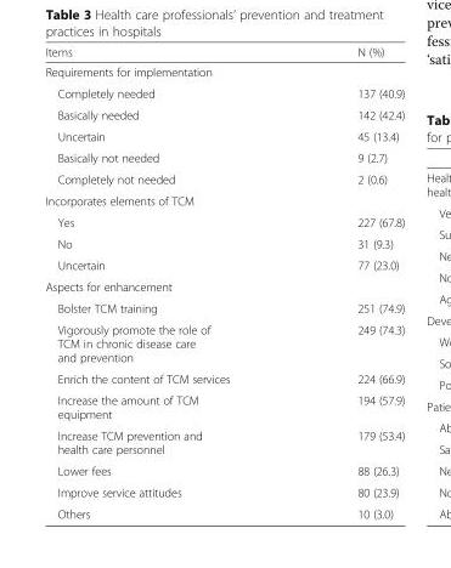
<table><thead><tr><td>Items</td><td>N (%)</td></tr></thead><tbody><tr><td colspan="2">Requirements for implementation</td></tr><tr><td>Completely needed</td><td>137 (40.9)</td></tr><tr><td>Basically needed</td><td>142 (42.4)</td></tr><tr><td>Uncertain</td><td>45 (13.4)</td></tr><tr><td>Basically not needed</td><td>9 (2.7)</td></tr><tr><td>Completely not needed</td><td>2 (0.6)</td></tr><tr><td colspan="2">Incorporates elements of TCM</td></tr><tr><td>Yes</td><td>227 (67.8)</td></tr><tr><td>No</td><td>31 (9.3)</td></tr><tr><td>Uncertain</td><td>77 (23.0)</td></tr><tr><td colspan="2">Aspects for enhancement</td></tr><tr><td>Bolster TCM training</td><td>251 (74.9)</td></tr><tr><td>Vigorously promote the role of TCM in chronic disease care and prevention</td><td>249 (74.3)</td></tr><tr><td>Enrich the content of TCM services</td><td>224 (66.9)</td></tr><tr><td>Increase the amount of TCM equipment</td><td>194 (57.9)</td></tr><tr><td>Increase TCM prevention and health care personnel</td><td>179 (53.4)</td></tr><tr><td>Lower fees</td><td>88 (26.3)</td></tr><tr><td>Improve service attitudes</td><td>80 (23.9)</td></tr><tr><td>Others</td><td>10 (3.0)</td></tr></tbody></table>